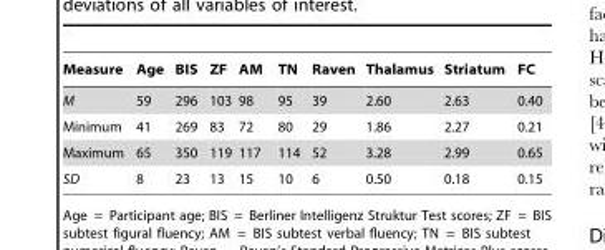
<table><thead><tr><td>Measure</td><td>Age</td><td>BIS</td><td>ZF</td><td>AM</td><td>TN</td><td>Raven</td><td>Thalamus</td><td>Striatum</td><td>FC</td></tr></thead><tbody><tr><td>M</td><td>59</td><td>296</td><td>103</td><td>98</td><td>95</td><td>39</td><td>2.60</td><td>2.63</td><td>0.40</td></tr><tr><td>Minimum</td><td>41</td><td>269</td><td>83</td><td>72</td><td>80</td><td>29</td><td>1.86</td><td>2.27</td><td>0.21</td></tr><tr><td>Maximum</td><td>65</td><td>350</td><td>119</td><td>117</td><td>114</td><td>52</td><td>3.28</td><td>2.99</td><td>0.65</td></tr><tr><td>SD</td><td>8</td><td>23</td><td>13</td><td>15</td><td>10</td><td>6</td><td>0.50</td><td>0.18</td><td>0.15</td></tr></tbody></table>